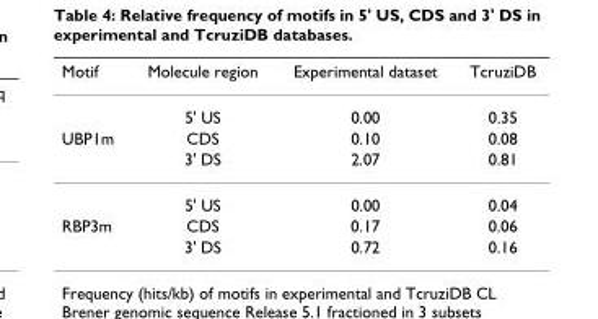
<table><thead><tr><td>Motif</td><td>Molecule region</td><td>Experimental dataset</td><td>TcruziDB</td></tr></thead><tbody><tr><td></td><td>5&#x27; US</td><td>0.00</td><td>0.35</td></tr><tr><td rowspan="3">UBP1m</td><td>CDS</td><td>0.10</td><td>0.08</td></tr><tr><td>3&#x27; DS</td><td>2.07</td><td>0.81</td></tr><tr><td>5&#x27; US</td><td>0.00</td><td>0.04</td></tr><tr><td rowspan="2">RBP3m</td><td>CDS</td><td>0.17</td><td>0.06</td></tr><tr><td>3&#x27; DS</td><td>0.72</td><td>0.16</td></tr></tbody></table>